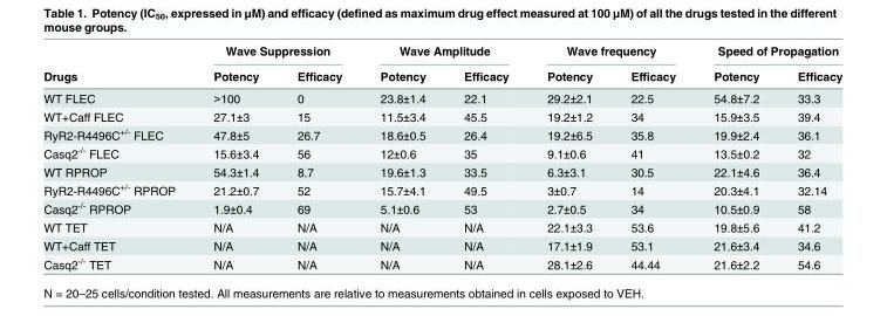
<table><thead><tr><td rowspan="2">Drugs</td><td colspan="2">Wave Suppression</td><td colspan="2">Wave Amplitude</td><td colspan="2">Wave frequency</td><td colspan="2">Speed of Propagation</td></tr><tr><td>Potency</td><td>Efficacy</td><td>Potency</td><td>Efficacy</td><td>Potency</td><td>Efficacy</td><td>Potency</td><td>Efficacy</td></tr></thead><tbody><tr><td>WT FLEC</td><td>&gt;100</td><td>0</td><td>23.8±1.4</td><td>22.1</td><td>29.2±2.1</td><td>22.5</td><td>54.8±7.2</td><td>33.3</td></tr><tr><td>WT+Caff FLEC</td><td>27.1±3</td><td>15</td><td>11.5±3.4</td><td>45.5</td><td>19.2±1.2</td><td>34</td><td>15.9±3.5</td><td>39.4</td></tr><tr><td>RyR2-R4496C<sup>+/-</sup> FLEC</td><td>47.8±5</td><td>26.7</td><td>18.6±0.5</td><td>26.4</td><td>19.2±6.5</td><td>35.8</td><td>19.9±2.4</td><td>36.1</td></tr><tr><td>Casq2<sup>-/-</sup> FLEC</td><td>15.6±3.4</td><td>56</td><td>12±0.6</td><td>35</td><td>9.1±0.6</td><td>41</td><td>13.5±0.2</td><td>32</td></tr><tr><td>WT RPROP</td><td>54.3±1.4</td><td>8.7</td><td>19.6±1.3</td><td>33.5</td><td>6.3±3.1</td><td>30.5</td><td>22.1±4.6</td><td>36.4</td></tr><tr><td>RyR2-R4496C<sup>+/-</sup> RPROP</td><td>21.2±0.7</td><td>52</td><td>15.7±4.1</td><td>49.5</td><td>3±0.7</td><td>14</td><td>20.3±4.1</td><td>32.14</td></tr><tr><td>Casq2<sup>-/-</sup> RPROP</td><td>1.9±0.4</td><td>69</td><td>5.1±0.6</td><td>53</td><td>2.7±0.5</td><td>34</td><td>10.5±0.9</td><td>58</td></tr><tr><td>WT TET</td><td>N/A</td><td>N/A</td><td>N/A</td><td>N/A</td><td>22.1±3.3</td><td>53.6</td><td>19.8±5.6</td><td>41.2</td></tr><tr><td>WT+Caff TET</td><td>N/A</td><td>N/A</td><td>N/A</td><td>N/A</td><td>17.1±1.9</td><td>53.1</td><td>21.6±3.4</td><td>34.6</td></tr><tr><td>Casq2<sup>-/-</sup> TET</td><td>N/A</td><td>N/A</td><td>N/A</td><td>N/A</td><td>28.1±2.6</td><td>44.44</td><td>21.6±2.2</td><td>54.6</td></tr></tbody></table>